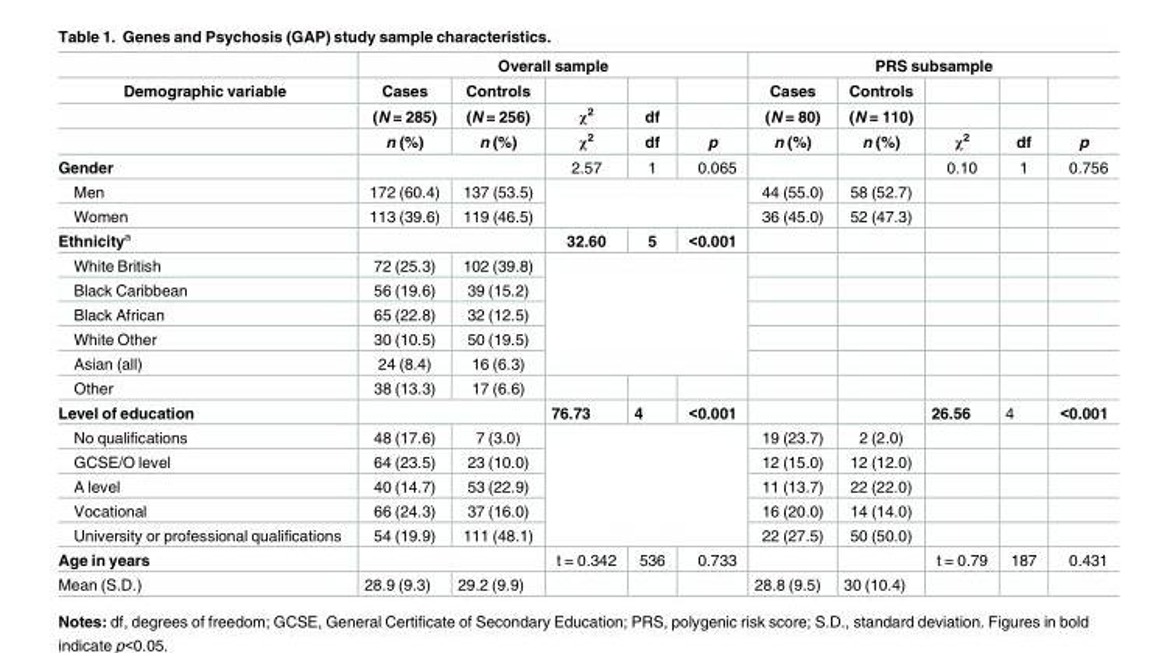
<table><thead><tr><td rowspan="4">Demographic variable</td><td colspan="5">Overall sample</td><td colspan="5">PRS subsample</td></tr><tr><td rowspan="3">Cases (N = 285) n (%)</td><td rowspan="3">Controls (N = 256) n (%)</td><td rowspan="3">χ<sup>2</sup> χ<sup>2</sup></td><td rowspan="3">df df</td><td rowspan="3">p</td><td rowspan="3">Cases (N = 80) n (%)</td><td rowspan="3">Controls (N = 110) n (%)</td><td rowspan="3">χ<sup>2</sup></td><td rowspan="3">df</td><td rowspan="3">p</td></tr><tr></tr><tr></tr></thead><tbody><tr><td>Gender</td><td colspan="2"></td><td>2.57</td><td>1</td><td>0.065</td><td></td><td></td><td>0.10</td><td>1</td><td>0.756</td></tr><tr><td>Men</td><td>172 (60.4)</td><td>137 (53.5)</td><td rowspan="2" colspan="3"></td><td>44 (55.0)</td><td>58 (52.7)</td><td></td><td></td><td></td></tr><tr><td>Women</td><td>113 (39.6)</td><td>119 (46.5)</td><td>36 (45.0)</td><td>52 (47.3)</td><td></td><td></td><td></td></tr><tr><td>Ethnicity<sup>a</sup></td><td colspan="2"></td><td>32.60</td><td>5</td><td>&lt;0.001</td><td></td><td></td><td></td><td></td><td></td></tr><tr><td>White British</td><td>72 (25.3)</td><td>102 (39.8)</td><td rowspan="5" colspan="3"></td><td></td><td></td><td></td><td></td><td></td></tr><tr><td>Black Caribbean</td><td>56 (19.6)</td><td>39 (15.2)</td><td></td><td></td><td></td><td></td><td></td></tr><tr><td>Black African</td><td>65 (22.8)</td><td>32 (12.5)</td><td></td><td></td><td></td><td></td><td></td></tr><tr><td>White Other</td><td>30 (10.5)</td><td>50 (19.5)</td><td></td><td></td><td></td><td></td><td></td></tr><tr><td>Asian (all)</td><td>24 (8.4)</td><td>16 (6.3)</td><td></td><td></td><td></td><td></td><td></td></tr><tr><td>Other</td><td>38 (13.3)</td><td>17 (6.6)</td><td></td><td></td><td></td><td></td><td></td><td></td><td></td><td></td></tr><tr><td>Level of education</td><td colspan="2"></td><td>76.73</td><td>4</td><td>&lt;0.001</td><td></td><td></td><td>26.56</td><td>4</td><td>&lt;0.001</td></tr><tr><td>No qualifications</td><td>48 (17.6)</td><td>7 (3.0)</td><td rowspan="5" colspan="3"></td><td>19 (23.7)</td><td>2 (2.0)</td><td></td><td></td><td></td></tr><tr><td>GCSE/O level</td><td>64 (23.5)</td><td>23 (10.0)</td><td>12 (15.0)</td><td>12 (12.0)</td><td></td><td></td><td></td></tr><tr><td>A level</td><td>40 (14.7)</td><td>53 (22.9)</td><td>11 (13.7)</td><td>22 (22.0)</td><td></td><td></td><td></td></tr><tr><td>Vocational</td><td>66 (24.3)</td><td>37 (16.0)</td><td>16 (20.0)</td><td>14 (14.0)</td><td></td><td></td><td></td></tr><tr><td>University or professional qualifications</td><td>54 (19.9)</td><td>111 (48.1)</td><td>22 (27.5)</td><td>50 (50.0)</td><td></td><td></td><td></td></tr><tr><td>Age in years</td><td colspan="2"></td><td>t = 0.342</td><td>536</td><td>0.733</td><td></td><td></td><td>t = 0.79</td><td>187</td><td>0.431</td></tr><tr><td>Mean (S.D.)</td><td>28.9 (9.3)</td><td>29.2 (9.9)</td><td></td><td></td><td></td><td>28.8 (9.5)</td><td>30 (10.4)</td><td></td><td></td><td></td></tr></tbody></table>